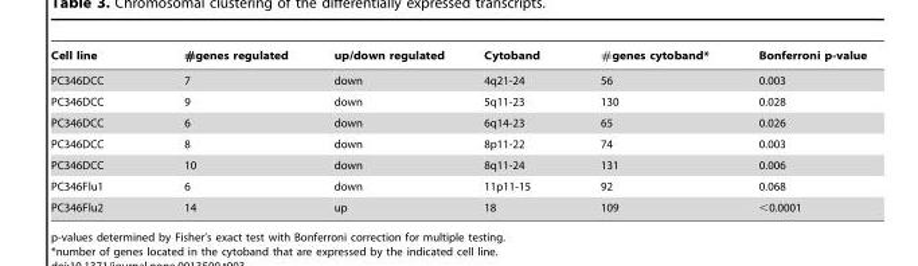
<table><thead><tr><td>Cell line</td><td>#genes regulated</td><td>up/down regulated</td><td>Cytoband</td><td>#genes cytoband*</td><td>Bonferroni p-value</td></tr></thead><tbody><tr><td>PC346DCC</td><td>7</td><td>down</td><td>4q21-24</td><td>56</td><td>0.003</td></tr><tr><td>PC346DCC</td><td>9</td><td>down</td><td>5q11-23</td><td>130</td><td>0.028</td></tr><tr><td>PC346DCC</td><td>6</td><td>down</td><td>6q14-23</td><td>65</td><td>0.026</td></tr><tr><td>PC346DCC</td><td>8</td><td>down</td><td>8p11-22</td><td>74</td><td>0.003</td></tr><tr><td>PC346DCC</td><td>10</td><td>down</td><td>8q11-24</td><td>131</td><td>0.006</td></tr><tr><td>PC346Flu1</td><td>6</td><td>down</td><td>11p11-15</td><td>92</td><td>0.068</td></tr><tr><td>PC346Flu2</td><td>14</td><td>up</td><td>18</td><td>109</td><td>&lt;0.0001</td></tr></tbody></table>